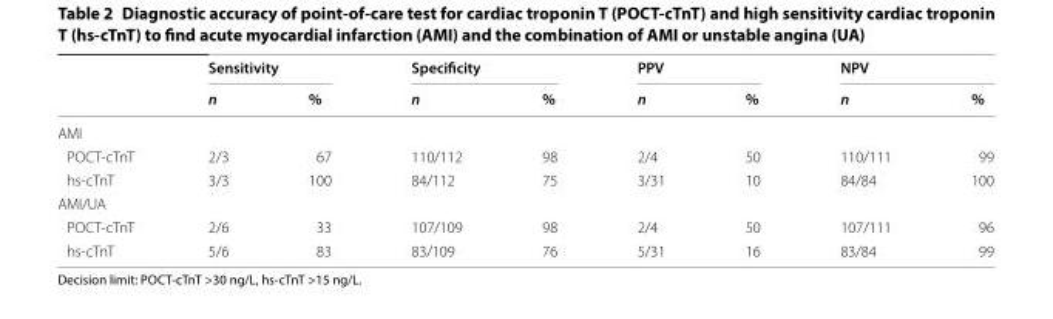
<table><thead><tr><td rowspan="2"></td><td colspan="2">Sensitivity</td><td colspan="2">Specificity</td><td colspan="2">PPV</td><td colspan="2">NPV</td></tr><tr><td>n</td><td>%</td><td>n</td><td>%</td><td>n</td><td>%</td><td>n</td><td>%</td></tr></thead><tbody><tr><td colspan="9">AMI</td></tr><tr><td>POCT‑cTnT</td><td>2/3</td><td>67</td><td>110/112</td><td>98</td><td>2/4</td><td>50</td><td>110/111</td><td>99</td></tr><tr><td>hs‑cTnT</td><td>3/3</td><td>100</td><td>84/112</td><td>75</td><td>3/31</td><td>10</td><td>84/84</td><td>100</td></tr><tr><td colspan="9">AMI/UA</td></tr><tr><td>POCT‑cTnT</td><td>2/6</td><td>33</td><td>107/109</td><td>98</td><td>2/4</td><td>50</td><td>107/111</td><td>96</td></tr><tr><td>hs‑cTnT</td><td>5/6</td><td>83</td><td>83/109</td><td>76</td><td>5/31</td><td>16</td><td>83/84</td><td>99</td></tr></tbody></table>